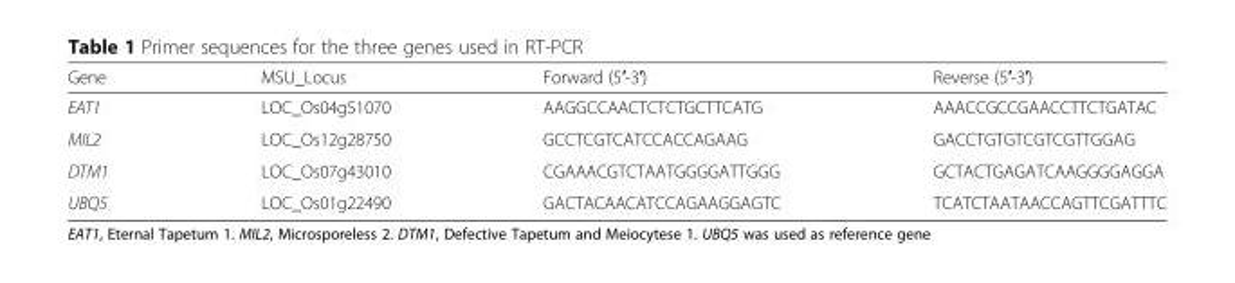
<table><thead><tr><td>Gene</td><td>MSU_Locus</td><td>Forward (5′-3′)</td><td>Reverse (5′-3′)</td></tr></thead><tbody><tr><td>EAT1</td><td>LOC_Os04g51070</td><td>AAGGCCAACTCTCTGCTTCATG</td><td>AAACCGCCGAACCTTCTGATAC</td></tr><tr><td>MIL2</td><td>LOC_Os12g28750</td><td>GCCTCGTCATCCACCAGAAG</td><td>GACCTGTGTCGTCGTTGGAG</td></tr><tr><td>DTM1</td><td>LOC_Os07g43010</td><td>CGAAACGTCTAATGGGGATTGGG</td><td>GCTACTGAGATCAAGGGGAGGA</td></tr><tr><td>UBQ5</td><td>LOC_Os01g22490</td><td>GACTACAACATCCAGAAGGAGTC</td><td>TCATCTAATAACCAGTTCGATTTC</td></tr></tbody></table>